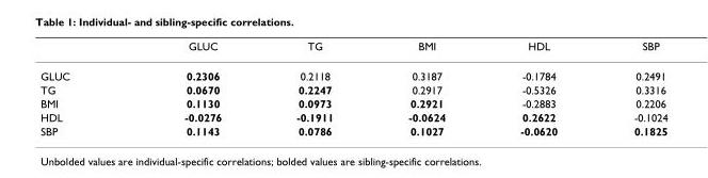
<table><thead><tr><td></td><td>GLUC</td><td>TG</td><td>BMI</td><td>HDL</td><td>SBP</td></tr></thead><tbody><tr><td>GLUC</td><td>0.2306</td><td>0.2118</td><td>0.3187</td><td>-0.1784</td><td>0.2491</td></tr><tr><td>TG</td><td>0.0670</td><td>0.2247</td><td>0.2917</td><td>-0.5326</td><td>0.3316</td></tr><tr><td>BMI</td><td>0.1130</td><td>0.0973</td><td>0.2921</td><td>-0.2883</td><td>0.2206</td></tr><tr><td>HDL</td><td>-0.0276</td><td>-0.1911</td><td>-0.0624</td><td>0.2622</td><td>-0.1024</td></tr><tr><td>SBP</td><td>0.1143</td><td>0.0786</td><td>0.1027</td><td>-0.0620</td><td>0.1825</td></tr></tbody></table>